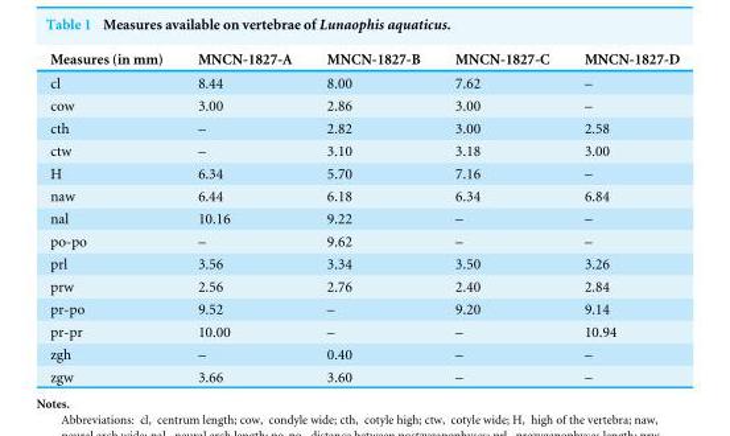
<table><thead><tr><td>Measures (in mm)</td><td>MNCN-1827-A</td><td>MNCN-1827-B</td><td>MNCN-1827-C</td><td>MNCN-1827-D</td></tr></thead><tbody><tr><td>cl</td><td>8.44</td><td>8.00</td><td>7.62</td><td>–</td></tr><tr><td>cow</td><td>3.00</td><td>2.86</td><td>3.00</td><td>–</td></tr><tr><td>cth</td><td>–</td><td>2.82</td><td>3.00</td><td>2.58</td></tr><tr><td>ctw</td><td>–</td><td>3.10</td><td>3.18</td><td>3.00</td></tr><tr><td>H</td><td>6.34</td><td>5.70</td><td>7.16</td><td>–</td></tr><tr><td>naw</td><td>6.44</td><td>6.18</td><td>6.34</td><td>6.84</td></tr><tr><td>nal</td><td>10.16</td><td>9.22</td><td>–</td><td>–</td></tr><tr><td>po-po</td><td>–</td><td>9.62</td><td>–</td><td>–</td></tr><tr><td>prl</td><td>3.56</td><td>3.34</td><td>3.50</td><td>3.26</td></tr><tr><td>prw</td><td>2.56</td><td>2.76</td><td>2.40</td><td>2.84</td></tr><tr><td>pr-po</td><td>9.52</td><td>–</td><td>9.20</td><td>9.14</td></tr><tr><td>pr-pr</td><td>10.00</td><td>–</td><td>–</td><td>10.94</td></tr><tr><td>zgh</td><td>–</td><td>0.40</td><td>–</td><td>–</td></tr><tr><td>zgw</td><td>3.66</td><td>3.60</td><td>–</td><td>–</td></tr></tbody></table>